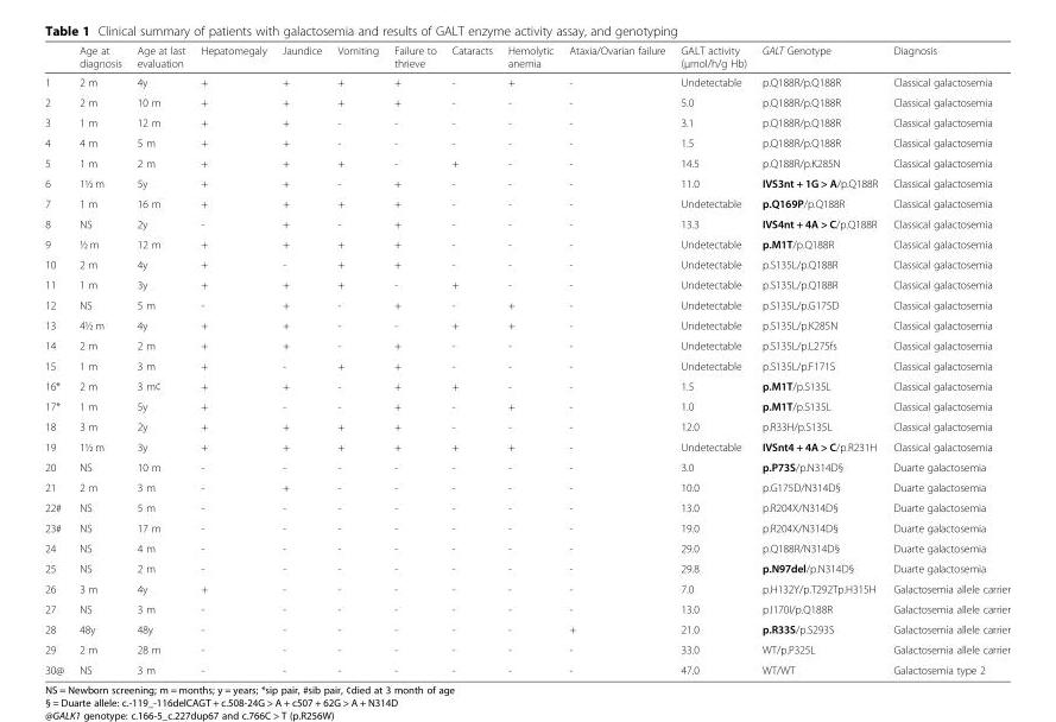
<table><thead><tr><td></td><td>Age at diagnosis</td><td>Age at last evaluation</td><td>Hepatomegaly</td><td>Jaundice</td><td>Vomiting</td><td>Failure to thrieve</td><td>Cataracts</td><td>Hemolytic anemia</td><td>Ataxia/Ovarian failure</td><td>GALT activity (μmol/h/g Hb)</td><td>GALT Genotype</td><td>Diagnosis</td></tr></thead><tbody><tr><td>1</td><td>2 m</td><td>4y</td><td>+</td><td>+</td><td>+</td><td>+</td><td>-</td><td>+</td><td>-</td><td>Undetectable</td><td>p.Q188R/p.Q188R</td><td>Classical galactosemia</td></tr><tr><td>2</td><td>2 m</td><td>10 m</td><td>+</td><td>+</td><td>+</td><td>+</td><td>-</td><td>-</td><td>-</td><td>5.0</td><td>p.Q188R/p.Q188R</td><td>Classical galactosemia</td></tr><tr><td>3</td><td>1 m</td><td>12 m</td><td>+</td><td>+</td><td>-</td><td>-</td><td>-</td><td>-</td><td>-</td><td>3.1</td><td>p.Q188R/p.Q188R</td><td>Classical galactosemia</td></tr><tr><td>4</td><td>4 m</td><td>5 m</td><td>+</td><td>+</td><td>-</td><td>-</td><td>-</td><td>-</td><td>-</td><td>1.5</td><td>p.Q188R/p.Q188R</td><td>Classical galactosemia</td></tr><tr><td>5</td><td>1 m</td><td>2 m</td><td>+</td><td>+</td><td>+</td><td>-</td><td>+</td><td>-</td><td>-</td><td>14.5</td><td>p.Q188R/p.K285N</td><td>Classical galactosemia</td></tr><tr><td>6</td><td>1½ m</td><td>5y</td><td>+</td><td>+</td><td>-</td><td>+</td><td>-</td><td>-</td><td>-</td><td>11.0</td><td>IVS3nt + 1G &gt; A/p.Q188R</td><td>Classical galactosemia</td></tr><tr><td>7</td><td>1 m</td><td>16 m</td><td>+</td><td>+</td><td>+</td><td>+</td><td>-</td><td>-</td><td>-</td><td>Undetectable</td><td>p.Q169P/p.Q188R</td><td>Classical galactosemia</td></tr><tr><td>8</td><td>NS</td><td>2y</td><td>-</td><td>+</td><td>-</td><td>+</td><td>-</td><td>-</td><td>-</td><td>13.3</td><td>IVS4nt + 4A &gt; C/p.Q188R</td><td>Classical galactosemia</td></tr><tr><td>9</td><td>½ m</td><td>12 m</td><td>+</td><td>+</td><td>+</td><td>+</td><td>-</td><td>-</td><td>-</td><td>Undetectable</td><td>p.M1T/p.Q188R</td><td>Classical galactosemia</td></tr><tr><td>10</td><td>2 m</td><td>4y</td><td>+</td><td>-</td><td>+</td><td>+</td><td>-</td><td>-</td><td>-</td><td>Undetectable</td><td>p.S135L/p.Q188R</td><td>Classical galactosemia</td></tr><tr><td>11</td><td>1 m</td><td>3y</td><td>+</td><td>+</td><td>+</td><td>-</td><td>+</td><td>-</td><td>-</td><td>Undetectable</td><td>p.S135L/p.Q188R</td><td>Classical galactosemia</td></tr><tr><td>12</td><td>NS</td><td>5 m</td><td>-</td><td>+</td><td>-</td><td>+</td><td>-</td><td>+</td><td>-</td><td>Undetectable</td><td>p.S135L/p.G175D</td><td>Classical galactosemia</td></tr><tr><td>13</td><td>4½ m</td><td>4y</td><td>+</td><td>+</td><td>-</td><td>-</td><td>+</td><td>+</td><td>-</td><td>Undetectable</td><td>p.S135L/p.K285N</td><td>Classical galactosemia</td></tr><tr><td>14</td><td>2 m</td><td>2 m</td><td>+</td><td>+</td><td>-</td><td>+</td><td>-</td><td>-</td><td>-</td><td>Undetectable</td><td>p.S135L/p.L275fs</td><td>Classical galactosemia</td></tr><tr><td>15</td><td>1 m</td><td>3 m</td><td>+</td><td>-</td><td>+</td><td>+</td><td>-</td><td>-</td><td>-</td><td>Undetectable</td><td>p.S135L/p.F171S</td><td>Classical galactosemia</td></tr><tr><td>16*</td><td>2 m</td><td>3 m¢</td><td>+</td><td>+</td><td>-</td><td>+</td><td>+</td><td>-</td><td>-</td><td>1.5</td><td>p.M1T/p.S135L</td><td>Classical galactosemia</td></tr><tr><td>17*</td><td>1 m</td><td>5y</td><td>+</td><td>-</td><td>-</td><td>+</td><td>-</td><td>+</td><td>-</td><td>1.0</td><td>p.M1T/p.S135L</td><td>Classical galactosemia</td></tr><tr><td>18</td><td>3 m</td><td>2y</td><td>+</td><td>+</td><td>+</td><td>+</td><td>-</td><td>-</td><td>-</td><td>12.0</td><td>p.R33H/p.S135L</td><td>Classical galactosemia</td></tr><tr><td>19</td><td>1½ m</td><td>3y</td><td>+</td><td>+</td><td>+</td><td>+</td><td>+</td><td>+</td><td>-</td><td>Undetectable</td><td>IVSnt4 + 4A &gt; C/p.R231H</td><td>Classical galactosemia</td></tr><tr><td>20</td><td>NS</td><td>10 m</td><td>-</td><td>-</td><td>-</td><td>-</td><td>-</td><td>-</td><td>-</td><td>3.0</td><td>p.P73S/p.N314D§</td><td>Duarte galactosemia</td></tr><tr><td>21</td><td>2 m</td><td>3 m</td><td>-</td><td>+</td><td>-</td><td>-</td><td>-</td><td>-</td><td>-</td><td>10.0</td><td>p.G175D/N314D§</td><td>Duarte galactosemia</td></tr><tr><td>22#</td><td>NS</td><td>5 m</td><td>-</td><td>-</td><td>-</td><td>-</td><td>-</td><td>-</td><td>-</td><td>13.0</td><td>p.R204X/N314D§</td><td>Duarte galactosemia</td></tr><tr><td>23#</td><td>NS</td><td>17 m</td><td>-</td><td>-</td><td>-</td><td>-</td><td>-</td><td>-</td><td>-</td><td>19.0</td><td>p.R204X/N314D§</td><td>Duarte galactosemia</td></tr><tr><td>24</td><td>NS</td><td>4 m</td><td>-</td><td>-</td><td>-</td><td>-</td><td>-</td><td>-</td><td>-</td><td>29.0</td><td>p.Q188R/N314D§</td><td>Duarte galactosemia</td></tr><tr><td>25</td><td>NS</td><td>2 m</td><td>-</td><td>-</td><td>-</td><td>-</td><td>-</td><td>-</td><td>-</td><td>29.8</td><td>p.N97del/p.N314D§</td><td>Duarte galactosemia</td></tr><tr><td>26</td><td>3 m</td><td>4y</td><td>+</td><td>-</td><td>-</td><td>-</td><td>-</td><td>-</td><td>-</td><td>7.0</td><td>p.H132Y/p.T292Tp.H315H</td><td>Galactosemia allele carrier</td></tr><tr><td>27</td><td>NS</td><td>3 m</td><td>-</td><td>-</td><td>-</td><td>-</td><td>-</td><td>-</td><td>-</td><td>13.0</td><td>p.I170I/p.Q188R</td><td>Galactosemia allele carrier</td></tr><tr><td>28</td><td>48y</td><td>48y</td><td>-</td><td>-</td><td>-</td><td>-</td><td>-</td><td>-</td><td>+</td><td>21.0</td><td>p.R33S/p.S293S</td><td>Galactosemia allele carrier</td></tr><tr><td>29</td><td>2 m</td><td>28 m</td><td>-</td><td>-</td><td>-</td><td>-</td><td>-</td><td>-</td><td>-</td><td>33.0</td><td>WT/p.P325L</td><td>Galactosemia allele carrier</td></tr><tr><td>30@</td><td>NS</td><td>3 m</td><td>-</td><td>-</td><td>-</td><td>-</td><td>-</td><td>-</td><td>-</td><td>47.0</td><td>WT/WT</td><td>Galactosemia type 2</td></tr></tbody></table>